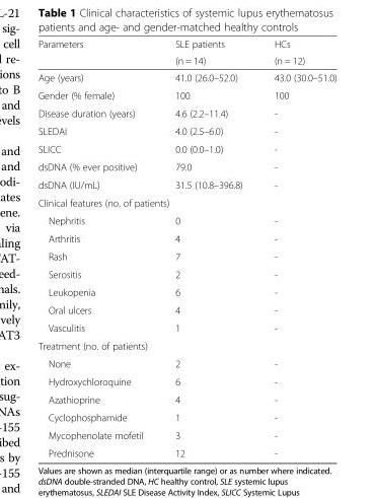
<table><thead><tr><td rowspan="2">Parameters</td><td rowspan="2">SLE patients (n = 14)</td><td rowspan="2">HCs (n = 12)</td></tr><tr></tr></thead><tbody><tr><td>Age (years)</td><td>41.0 (26.0–52.0)</td><td>43.0 (30.0–51.0)</td></tr><tr><td>Gender (% female)</td><td>100</td><td>100</td></tr><tr><td>Disease duration (years)</td><td>4.6 (2.2–11.4)</td><td>-</td></tr><tr><td>SLEDAI</td><td>4.0 (2.5–6.0)</td><td>-</td></tr><tr><td>SLICC</td><td>0.0 (0.0–1.0)</td><td>-</td></tr><tr><td>dsDNA (% ever positive)</td><td>79.0</td><td>-</td></tr><tr><td>dsDNA (IU/mL)</td><td>31.5 (10.8–396.8)</td><td>-</td></tr><tr><td colspan="3">Clinical features (no. of patients)</td></tr><tr><td>Nephritis</td><td>0</td><td>-</td></tr><tr><td>Arthritis</td><td>4</td><td>-</td></tr><tr><td>Rash</td><td>7</td><td>-</td></tr><tr><td>Serositis</td><td>2</td><td>-</td></tr><tr><td>Leukopenia</td><td>6</td><td>-</td></tr><tr><td>Oral ulcers</td><td>4</td><td>-</td></tr><tr><td>Vasculitis</td><td>1</td><td>-</td></tr><tr><td colspan="3">Treatment (no. of patients)</td></tr><tr><td>None</td><td>2</td><td>-</td></tr><tr><td>Hydroxychloroquine</td><td>6</td><td>-</td></tr><tr><td>Azathioprine</td><td>4</td><td>-</td></tr><tr><td>Cyclophosphamide</td><td>1</td><td>-</td></tr><tr><td>Mycophenolate mofetil</td><td>3</td><td>-</td></tr><tr><td>Prednisone</td><td>12</td><td>-</td></tr></tbody></table>